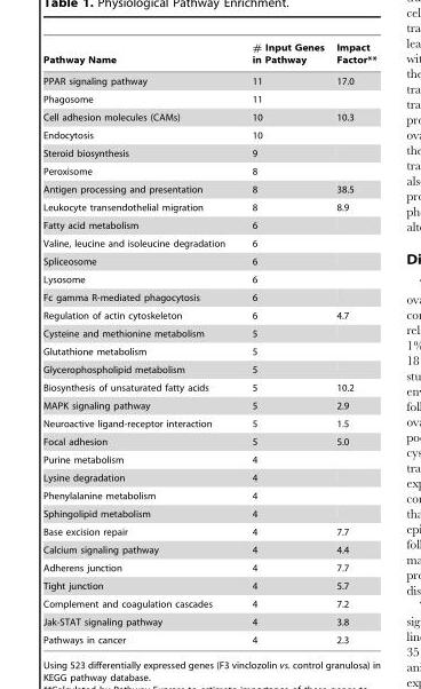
<table><thead><tr><td>Pathway Name</td><td># Input Genes in Pathway</td><td>Impact Factor**</td></tr></thead><tbody><tr><td>PPAR signaling pathway</td><td>11</td><td>17.0</td></tr><tr><td>Phagosome</td><td>11</td><td></td></tr><tr><td>Cell adhesion molecules (CAMs)</td><td>10</td><td>10.3</td></tr><tr><td>Endocytosis</td><td>10</td><td></td></tr><tr><td>Steroid biosynthesis</td><td>9</td><td></td></tr><tr><td>Peroxisome</td><td>8</td><td></td></tr><tr><td>Antigen processing and presentation</td><td>8</td><td>38.5</td></tr><tr><td>Leukocyte transendothelial migration</td><td>8</td><td>8.9</td></tr><tr><td>Fatty acid metabolism</td><td>6</td><td></td></tr><tr><td>Valine, leucine and isoleucine degradation</td><td>6</td><td></td></tr><tr><td>Spliceosome</td><td>6</td><td></td></tr><tr><td>Lysosome</td><td>6</td><td></td></tr><tr><td>Fc gamma R-mediated phagocytosis</td><td>6</td><td></td></tr><tr><td>Regulation of actin cytoskeleton</td><td>6</td><td>4.7</td></tr><tr><td>Cysteine and methionine metabolism</td><td>5</td><td></td></tr><tr><td>Glutathione metabolism</td><td>5</td><td></td></tr><tr><td>Glycerophospholipid metabolism</td><td>5</td><td></td></tr><tr><td>Biosynthesis of unsaturated fatty acids</td><td>5</td><td>10.2</td></tr><tr><td>MAPK signaling pathway</td><td>5</td><td>2.9</td></tr><tr><td>Neuroactive ligand-receptor interaction</td><td>5</td><td>1.5</td></tr><tr><td>Focal adhesion</td><td>5</td><td>5.0</td></tr><tr><td>Purine metabolism</td><td>4</td><td></td></tr><tr><td>Lysine degradation</td><td>4</td><td></td></tr><tr><td>Phenylalanine metabolism</td><td>4</td><td></td></tr><tr><td>Sphingolipid metabolism</td><td>4</td><td></td></tr><tr><td>Base excision repair</td><td>4</td><td>7.7</td></tr><tr><td>Calcium signaling pathway</td><td>4</td><td>4.4</td></tr><tr><td>Adherens junction</td><td>4</td><td>7.7</td></tr><tr><td>Tight junction</td><td>4</td><td>5.7</td></tr><tr><td>Complement and coagulation cascades</td><td>4</td><td>7.2</td></tr><tr><td>Jak-STAT signaling pathway</td><td>4</td><td>3.8</td></tr><tr><td>Pathways in cancer</td><td>4</td><td>2.3</td></tr></tbody></table>